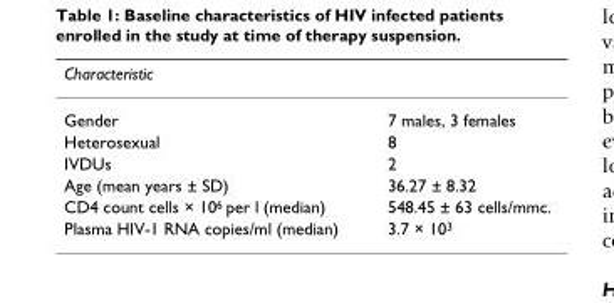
<table><thead><tr><td>Characteristic</td><td></td></tr></thead><tbody><tr><td>Gender</td><td>7 males, 3 females</td></tr><tr><td>Heterosexual</td><td>8</td></tr><tr><td>IVDUs</td><td>2</td></tr><tr><td>Age (mean years ± SD)</td><td>36.27 ± 8.32</td></tr><tr><td>CD4 count cells × 10<sup>6</sup> per l (median)</td><td>548.45 ± 63 cells/mmc.</td></tr><tr><td>Plasma HIV-1 RNA copies/ml (median)</td><td>3.7 × 10<sup>3</sup></td></tr></tbody></table>